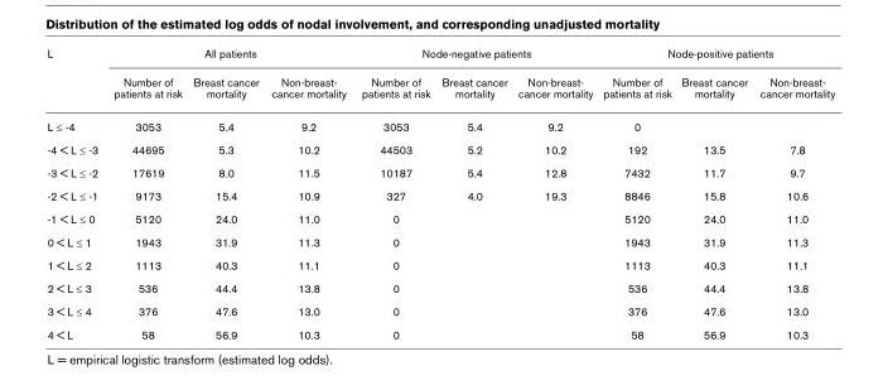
<table><thead><tr><td rowspan="2">L</td><td colspan="3">All patients</td><td colspan="3">Node-negative patients</td><td colspan="3">Node-positive patients</td></tr><tr><td>Number of patients at risk</td><td>Breast cancer mortality</td><td>Non-breast- cancer mortality</td><td>Number of patients at risk</td><td>Breast cancer mortality</td><td>Non-breast- cancer mortality</td><td>Number of patients at risk</td><td>Breast cancer mortality</td><td>Non-breast- cancer mortality</td></tr></thead><tbody><tr><td>L ≤ -4</td><td>3053</td><td>5.4</td><td>9.2</td><td>3053</td><td>5.4</td><td>9.2</td><td>0</td><td></td><td></td></tr><tr><td>-4 &lt; L ≤ -3</td><td>44695</td><td>5.3</td><td>10.2</td><td>44503</td><td>5.2</td><td>10.2</td><td>192</td><td>13.5</td><td>7.8</td></tr><tr><td>-3 &lt; L ≤ -2</td><td>17619</td><td>8.0</td><td>11.5</td><td>10187</td><td>5.4</td><td>12.8</td><td>7432</td><td>11.7</td><td>9.7</td></tr><tr><td>-2 &lt; L ≤ -1</td><td>9173</td><td>15.4</td><td>10.9</td><td>327</td><td>4.0</td><td>19.3</td><td>8846</td><td>15.8</td><td>10.6</td></tr><tr><td>-1 &lt; L ≤ 0</td><td>5120</td><td>24.0</td><td>11.0</td><td>0</td><td></td><td></td><td>5120</td><td>24.0</td><td>11.0</td></tr><tr><td>0 &lt; L ≤ 1</td><td>1943</td><td>31.9</td><td>11.3</td><td>0</td><td></td><td></td><td>1943</td><td>31.9</td><td>11.3</td></tr><tr><td>1 &lt; L ≤ 2</td><td>1113</td><td>40.3</td><td>11.1</td><td>0</td><td></td><td></td><td>1113</td><td>40.3</td><td>11.1</td></tr><tr><td>2 &lt; L ≤ 3</td><td>536</td><td>44.4</td><td>13.8</td><td>0</td><td></td><td></td><td>536</td><td>44.4</td><td>13.8</td></tr><tr><td>3 &lt; L ≤ 4</td><td>376</td><td>47.6</td><td>13.0</td><td>0</td><td></td><td></td><td>376</td><td>47.6</td><td>13.0</td></tr><tr><td>4 &lt; L</td><td>58</td><td>56.9</td><td>10.3</td><td>0</td><td></td><td></td><td>58</td><td>56.9</td><td>10.3</td></tr></tbody></table>